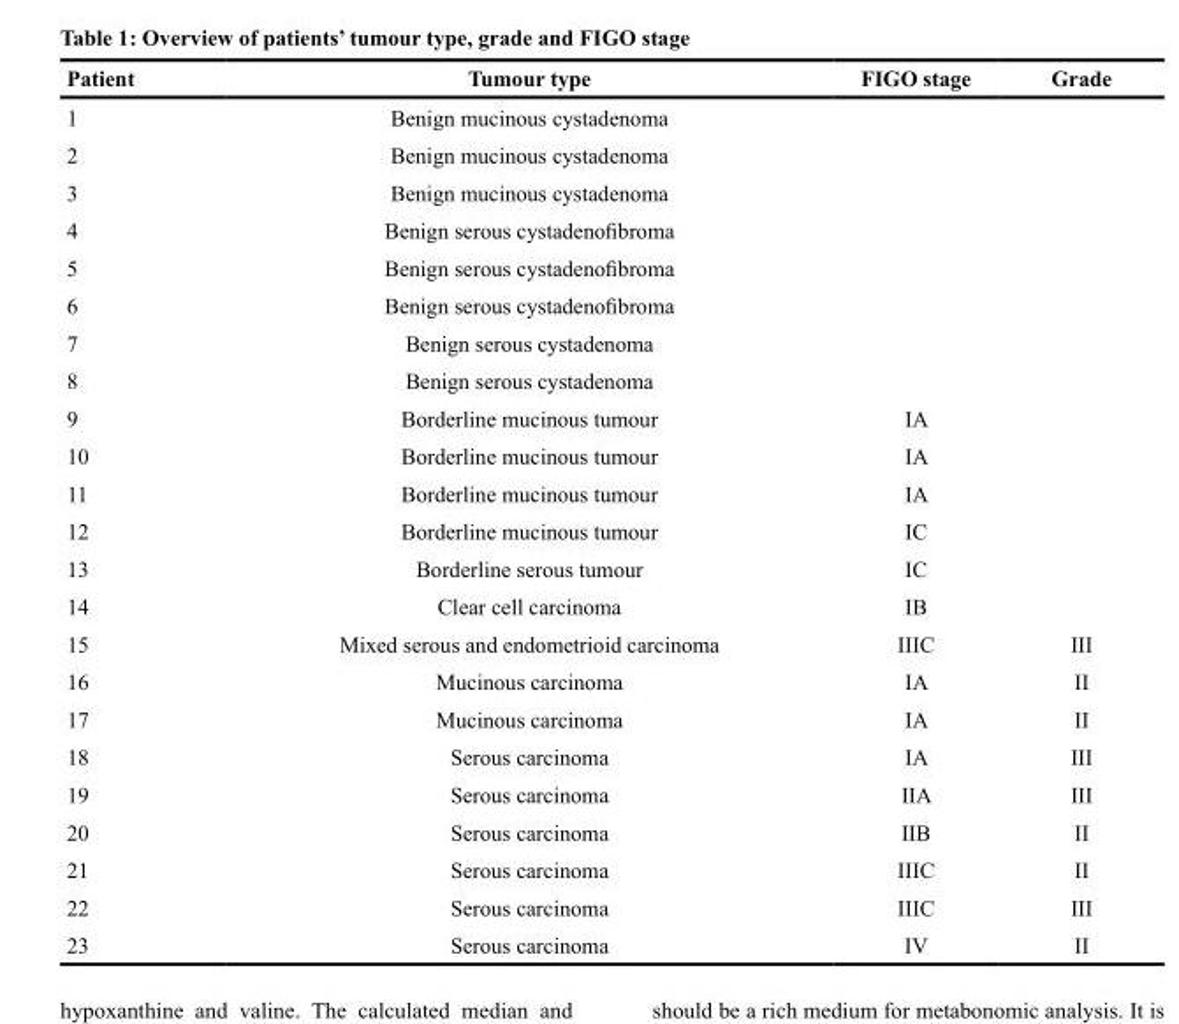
<table><thead><tr><td>Patient</td><td>Tumour type</td><td>FIGO stage</td><td>Grade</td></tr></thead><tbody><tr><td>1</td><td>Benign mucinous cystadenoma</td><td></td><td></td></tr><tr><td>2</td><td>Benign mucinous cystadenoma</td><td></td><td></td></tr><tr><td>3</td><td>Benign mucinous cystadenoma</td><td></td><td></td></tr><tr><td>4</td><td>Benign serous cystadenofibroma</td><td></td><td></td></tr><tr><td>5</td><td>Benign serous cystadenofibroma</td><td></td><td></td></tr><tr><td>6</td><td>Benign serous cystadenofibroma</td><td></td><td></td></tr><tr><td>7</td><td>Benign serous cystadenoma</td><td></td><td></td></tr><tr><td>8</td><td>Benign serous cystadenoma</td><td></td><td></td></tr><tr><td>9</td><td>Borderline mucinous tumour</td><td>IA</td><td></td></tr><tr><td>10</td><td>Borderline mucinous tumour</td><td>IA</td><td></td></tr><tr><td>11</td><td>Borderline mucinous tumour</td><td>IA</td><td></td></tr><tr><td>12</td><td>Borderline mucinous tumour</td><td>IC</td><td></td></tr><tr><td>13</td><td>Borderline serous tumour</td><td>IC</td><td></td></tr><tr><td>14</td><td>Clear cell carcinoma</td><td>IB</td><td></td></tr><tr><td>15</td><td>Mixed serous and endometrioid carcinoma</td><td>IIIC</td><td>III</td></tr><tr><td>16</td><td>Mucinous carcinoma</td><td>IA</td><td>II</td></tr><tr><td>17</td><td>Mucinous carcinoma</td><td>IA</td><td>II</td></tr><tr><td>18</td><td>Serous carcinoma</td><td>IA</td><td>III</td></tr><tr><td>19</td><td>Serous carcinoma</td><td>IIA</td><td>III</td></tr><tr><td>20</td><td>Serous carcinoma</td><td>IIB</td><td>II</td></tr><tr><td>21</td><td>Serous carcinoma</td><td>IIIC</td><td>II</td></tr><tr><td>22</td><td>Serous carcinoma</td><td>IIIC</td><td>III</td></tr><tr><td>23</td><td>Serous carcinoma</td><td>IV</td><td>II</td></tr></tbody></table>